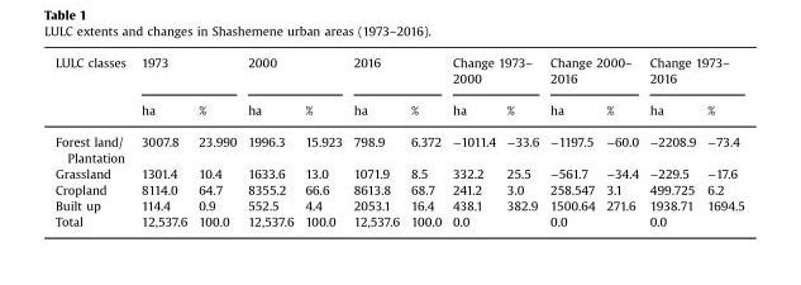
<table><thead><tr><td rowspan="2">LULC classes</td><td colspan="2">1973</td><td colspan="2">2000</td><td colspan="2">2016</td><td colspan="2">Change 1973– 2000</td><td colspan="2">Change 2000– 2016</td><td colspan="2">Change 1973– 2016</td></tr><tr><td>ha</td><td>%</td><td>ha</td><td>%</td><td>ha</td><td>%</td><td>ha</td><td>%</td><td>ha</td><td>%</td><td>ha</td><td>%</td></tr></thead><tbody><tr><td>Forest land/ Plantation</td><td>3007.8</td><td>23.990</td><td>1996.3</td><td>15.923</td><td>798.9</td><td>6.372</td><td>−1011.4</td><td>−33.6</td><td>−1197.5</td><td>−60.0</td><td>−2208.9</td><td>−73.4</td></tr><tr><td>Grassland</td><td>1301.4</td><td>10.4</td><td>1633.6</td><td>13.0</td><td>1071.9</td><td>8.5</td><td>332.2</td><td>25.5</td><td>−561.7</td><td>−34.4</td><td>−229.5</td><td>−17.6</td></tr><tr><td>Cropland</td><td>8114.0</td><td>64.7</td><td>8355.2</td><td>66.6</td><td>8613.8</td><td>68.7</td><td>241.2</td><td>3.0</td><td>258.547</td><td>3.1</td><td>499.725</td><td>6.2</td></tr><tr><td>Built up</td><td>114.4</td><td>0.9</td><td>552.5</td><td>4.4</td><td>2053.1</td><td>16.4</td><td>438.1</td><td>382.9</td><td>1500.64</td><td>271.6</td><td>1938.71</td><td>1694.5</td></tr><tr><td>Total</td><td>12,537.6</td><td>100.0</td><td>12,537.6</td><td>100.0</td><td>12,537.6</td><td>100.0</td><td colspan="2">0.0</td><td colspan="2">0.0</td><td colspan="2">0.0</td></tr></tbody></table>